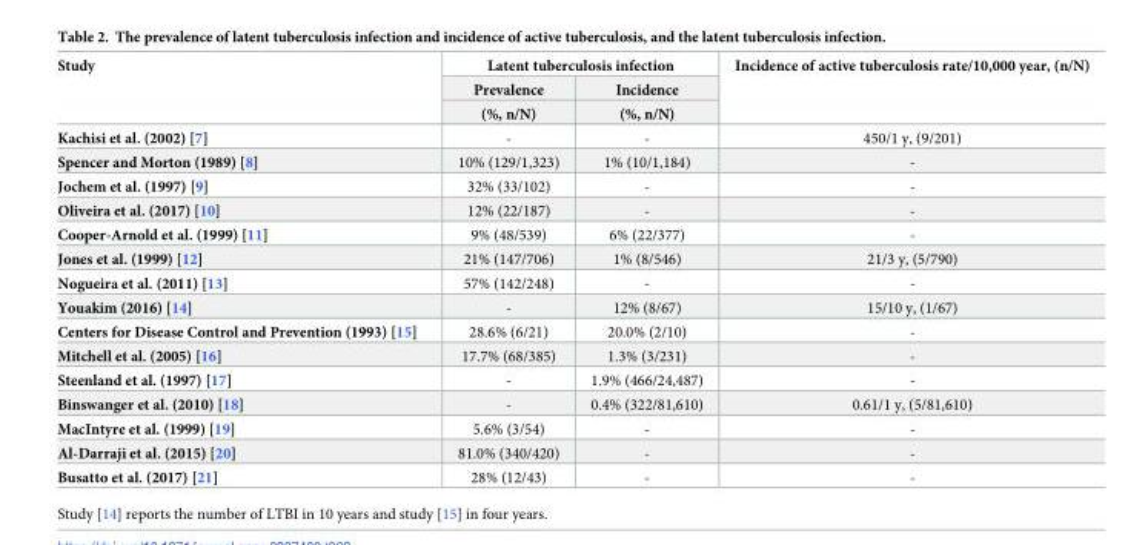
<table><thead><tr><td rowspan="3">Study</td><td colspan="2">Latent tuberculosis infection</td><td rowspan="3">Incidence of active tuberculosis rate/10,000 year, (n/N)</td></tr><tr><td rowspan="2">Prevalence (%, n/N)</td><td rowspan="2">Incidence (%, n/N)</td></tr><tr></tr></thead><tbody><tr><td>Kachisi et al. (2002) [7]</td><td>-</td><td>-</td><td>450/1 y, (9/201)</td></tr><tr><td>Spencer and Morton (1989) [8]</td><td>10% (129/1,323)</td><td>1% (10/1,184)</td><td>-</td></tr><tr><td>Jochem et al. (1997) [9]</td><td>32% (33/102)</td><td>-</td><td>-</td></tr><tr><td>Oliveira et al. (2017) [10]</td><td>12% (22/187)</td><td>-</td><td>-</td></tr><tr><td>Cooper-Arnold et al. (1999) [11]</td><td>9% (48/539)</td><td>6% (22/377)</td><td>-</td></tr><tr><td>Jones et al. (1999) [12]</td><td>21% (147/706)</td><td>1% (8/546)</td><td>21/3 y, (5/790)</td></tr><tr><td>Nogueira et al. (2011) [13]</td><td>57% (142/248)</td><td>-</td><td>-</td></tr><tr><td>Youakim (2016) [14]</td><td>-</td><td>12% (8/67)</td><td>15/10 y, (1/67)</td></tr><tr><td>Centers for Disease Control and Prevention (1993) [15]</td><td>28.6% (6/21)</td><td>20.0% (2/10)</td><td>-</td></tr><tr><td>Mitchell et al. (2005) [16]</td><td>17.7% (68/385)</td><td>1.3% (3/231)</td><td>-</td></tr><tr><td>Steenland et al. (1997) [17]</td><td>-</td><td>1.9% (466/24,487)</td><td>-</td></tr><tr><td>Binswanger et al. (2010) [18]</td><td>-</td><td>0.4% (322/81,610)</td><td>0.61/1 y, (5/81,610)</td></tr><tr><td>MacIntyre et al. (1999) [19]</td><td>5.6% (3/54)</td><td>-</td><td>-</td></tr><tr><td>Al-Darraji et al. (2015) [20]</td><td>81.0% (340/420)</td><td>-</td><td>-</td></tr><tr><td>Busatto et al. (2017) [21]</td><td>28% (12/43)</td><td>-</td><td>-</td></tr></tbody></table>